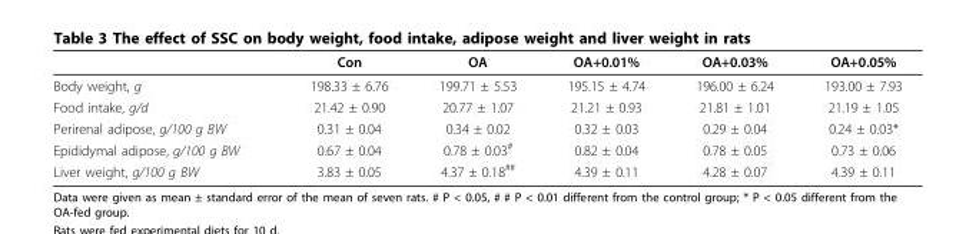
<table><thead><tr><td></td><td>Con</td><td>OA</td><td>OA+0.01%</td><td>OA+0.03%</td><td>OA+0.05%</td></tr></thead><tbody><tr><td>Body weight, g</td><td>198.33 ± 6.76</td><td>199.71 ± 5.53</td><td>195.15 ± 4.74</td><td>196.00 ± 6.24</td><td>193.00 ± 7.93</td></tr><tr><td>Food intake, g/d</td><td>21.42 ± 0.90</td><td>20.77 ± 1.07</td><td>21.21 ± 0.93</td><td>21.81 ± 1.01</td><td>21.19 ± 1.05</td></tr><tr><td>Perirenal adipose, g/100 g BW</td><td>0.31 ± 0.04</td><td>0.34 ± 0.02</td><td>0.32 ± 0.03</td><td>0.29 ± 0.04</td><td>0.24 ± 0.03*</td></tr><tr><td>Epididymal adipose, g/100 g BW</td><td>0.67 ± 0.04</td><td>0.78 ± 0.03<sup>#</sup></td><td>0.82 ± 0.04</td><td>0.78 ± 0.05</td><td>0.73 ± 0.06</td></tr><tr><td>Liver weight, g/100 g BW</td><td>3.83 ± 0.05</td><td>4.37 ± 0.18<sup>##</sup></td><td>4.39 ± 0.11</td><td>4.28 ± 0.07</td><td>4.39 ± 0.11</td></tr></tbody></table>